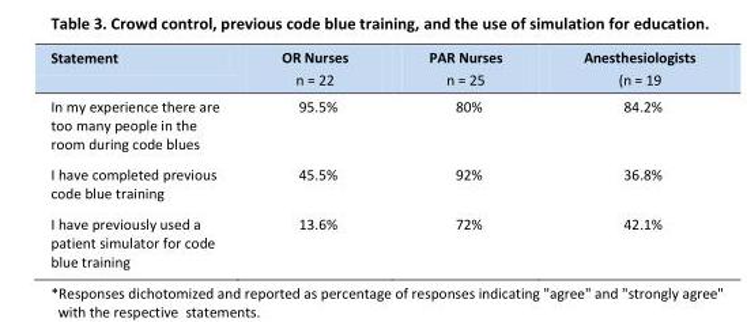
<table><thead><tr><td>Statement</td><td>OR Nurses n = 22</td><td>PAR Nurses n = 25</td><td>Anesthesiologists (n = 19</td></tr></thead><tbody><tr><td>In my experience there are too many people in the room during code blues</td><td>95.5%</td><td>80%</td><td>84.2%</td></tr><tr><td>I have completed previous code blue training</td><td>45.5%</td><td>92%</td><td>36.8%</td></tr><tr><td>I have previously used a patient simulator for code blue training</td><td>13.6%</td><td>72%</td><td>42.1%</td></tr></tbody></table>